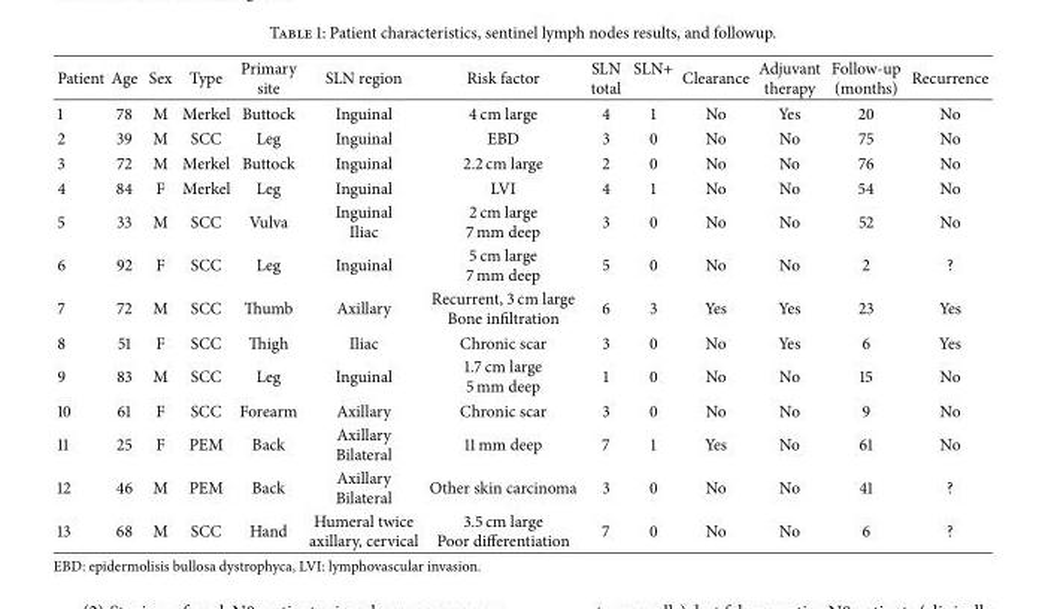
<table><thead><tr><td>Patient</td><td>Age</td><td>Sex</td><td>Type</td><td>Primary site</td><td>SLN region</td><td>Risk factor</td><td>SLN total</td><td>SLN+</td><td>Clearance</td><td>Adjuvant therapy</td><td>Follow-up (months)</td><td>Recurrence</td></tr></thead><tbody><tr><td>1</td><td>78</td><td>M</td><td>Merkel</td><td>Buttock</td><td>Inguinal</td><td>4 cm large</td><td>4</td><td>1</td><td>No</td><td>Yes</td><td>20</td><td>No</td></tr><tr><td>2</td><td>39</td><td>M</td><td>SCC</td><td>Leg</td><td>Inguinal</td><td>EBD</td><td>3</td><td>0</td><td>No</td><td>No</td><td>75</td><td>No</td></tr><tr><td>3</td><td>72</td><td>M</td><td>Merkel</td><td>Buttock</td><td>Inguinal</td><td>2.2 cm large</td><td>2</td><td>0</td><td>No</td><td>No</td><td>76</td><td>No</td></tr><tr><td>4</td><td>84</td><td>F</td><td>Merkel</td><td>Leg</td><td>Inguinal</td><td>LVI</td><td>4</td><td>1</td><td>No</td><td>No</td><td>54</td><td>No</td></tr><tr><td>5</td><td>33</td><td>M</td><td>SCC</td><td>Vulva</td><td>Inguinal Iliac</td><td>2 cm large 7 mm deep</td><td>3</td><td>0</td><td>No</td><td>No</td><td>52</td><td>No</td></tr><tr><td>6</td><td>92</td><td>F</td><td>SCC</td><td>Leg</td><td>Inguinal</td><td>5 cm large 7 mm deep</td><td>5</td><td>0</td><td>No</td><td>No</td><td>2</td><td>?</td></tr><tr><td>7</td><td>72</td><td>M</td><td>SCC</td><td>Thumb</td><td>Axillary</td><td>Recurrent, 3 cm large Bone infiltration</td><td>6</td><td>3</td><td>Yes</td><td>Yes</td><td>23</td><td>Yes</td></tr><tr><td>8</td><td>51</td><td>F</td><td>SCC</td><td>Thigh</td><td>Iliac</td><td>Chronic scar</td><td>3</td><td>0</td><td>No</td><td>Yes</td><td>6</td><td>Yes</td></tr><tr><td>9</td><td>83</td><td>M</td><td>SCC</td><td>Leg</td><td>Inguinal</td><td>1.7 cm large 5 mm deep</td><td>1</td><td>0</td><td>No</td><td>No</td><td>15</td><td>No</td></tr><tr><td>10</td><td>61</td><td>F</td><td>SCC</td><td>Forearm</td><td>Axillary</td><td>Chronic scar</td><td>3</td><td>0</td><td>No</td><td>No</td><td>9</td><td>No</td></tr><tr><td>11</td><td>25</td><td>F</td><td>PEM</td><td>Back</td><td>Axillary Bilateral</td><td>11 mm deep</td><td>7</td><td>1</td><td>Yes</td><td>No</td><td>61</td><td>No</td></tr><tr><td>12</td><td>46</td><td>M</td><td>PEM</td><td>Back</td><td>Axillary Bilateral</td><td>Other skin carcinoma</td><td>3</td><td>0</td><td>No</td><td>No</td><td>41</td><td>?</td></tr><tr><td>13</td><td>68</td><td>M</td><td>SCC</td><td>Hand</td><td>Humeral twice axillary, cervical</td><td>3.5 cm large Poor differentiation</td><td>7</td><td>0</td><td>No</td><td>No</td><td>6</td><td>?</td></tr></tbody></table>